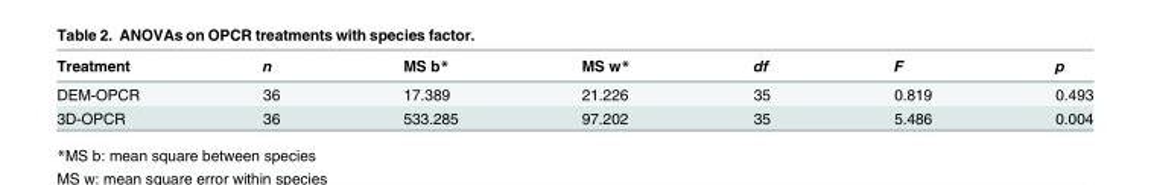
<table><thead><tr><td>Treatment</td><td>n</td><td>MS b*</td><td>MS w*</td><td>df</td><td>F</td><td>p</td></tr></thead><tbody><tr><td>DEM-OPCR</td><td>36</td><td>17.389</td><td>21.226</td><td>35</td><td>0.819</td><td>0.493</td></tr><tr><td>3D-OPCR</td><td>36</td><td>533.285</td><td>97.202</td><td>35</td><td>5.486</td><td>0.004</td></tr></tbody></table>